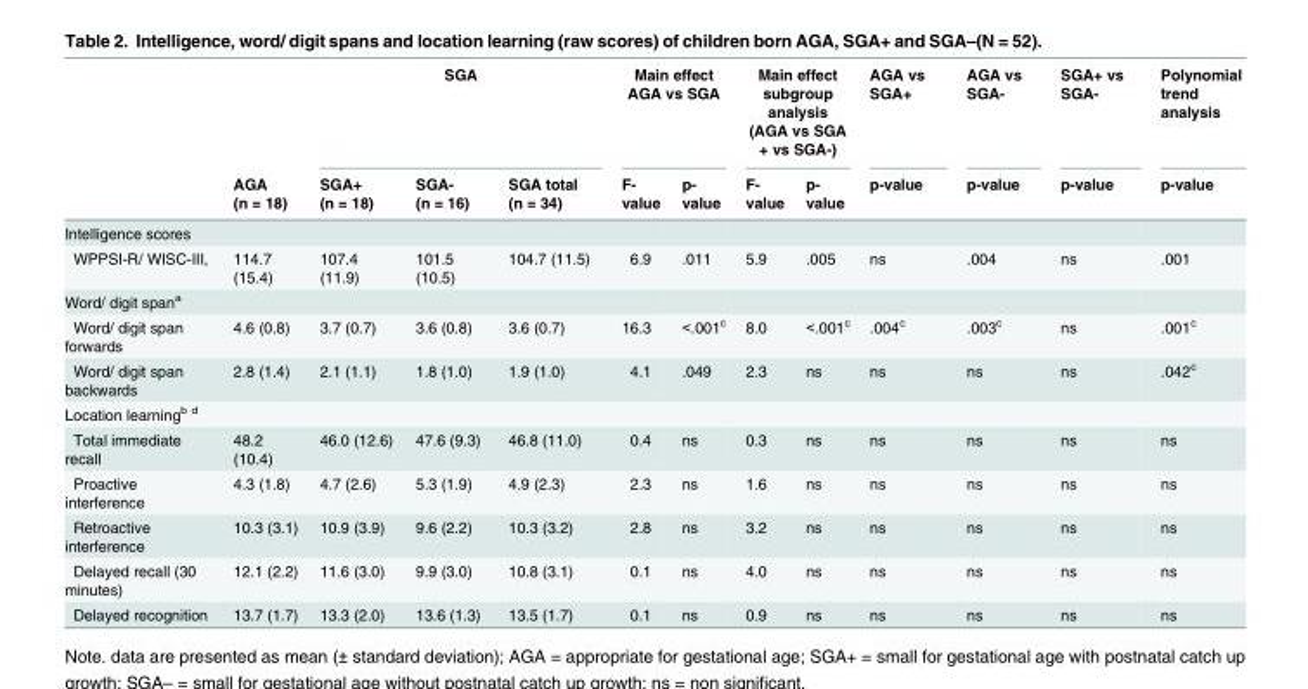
<table><thead><tr><td rowspan="2"></td><td rowspan="2">AGA (n = 18)</td><td colspan="3">SGA</td><td colspan="2">Main effect AGA vs SGA</td><td colspan="2">Main effect subgroup analysis (AGA vs SGA + vs SGA-)</td><td rowspan="2">AGA vs SGA+ p-value</td><td rowspan="2">AGA vs SGA- p-value</td><td rowspan="2">SGA+ vs SGA- p-value</td><td rowspan="2">Polynomial trend analysis p-value</td></tr><tr><td>SGA+ (n = 18)</td><td>SGA- (n = 16)</td><td>SGA total (n = 34)</td><td>F- value</td><td>p- value</td><td>F- value</td><td>p- value</td></tr></thead><tbody><tr><td colspan="13">Intelligence scores</td></tr><tr><td>WPPSI-R/ WISC-III,</td><td>114.7 (15.4)</td><td>107.4 (11.9)</td><td>101.5 (10.5)</td><td>104.7 (11.5)</td><td>6.9</td><td>.011</td><td>5.9</td><td>.005</td><td>ns</td><td>.004</td><td>ns</td><td>.001</td></tr><tr><td colspan="13">Word/ digit span<sup>a</sup></td></tr><tr><td>Word/ digit span forwards</td><td>4.6 (0.8)</td><td>3.7 (0.7)</td><td>3.6 (0.8)</td><td>3.6 (0.7)</td><td>16.3</td><td>&lt;.001<sup>c</sup></td><td>8.0</td><td>&lt;.001<sup>c</sup></td><td>.004<sup>c</sup></td><td>.003<sup>c</sup></td><td>ns</td><td>.001<sup>c</sup></td></tr><tr><td>Word/ digit span backwards</td><td>2.8 (1.4)</td><td>2.1 (1.1)</td><td>1.8 (1.0)</td><td>1.9 (1.0)</td><td>4.1</td><td>.049</td><td>2.3</td><td>ns</td><td>ns</td><td>ns</td><td>ns</td><td>.042<sup>c</sup></td></tr><tr><td colspan="13">Location learning<sup>b d</sup></td></tr><tr><td>Total immediate recall</td><td>48.2 (10.4)</td><td>46.0 (12.6)</td><td>47.6 (9.3)</td><td>46.8 (11.0)</td><td>0.4</td><td>ns</td><td>0.3</td><td>ns</td><td>ns</td><td>ns</td><td>ns</td><td>ns</td></tr><tr><td>Proactive interference</td><td>4.3 (1.8)</td><td>4.7 (2.6)</td><td>5.3 (1.9)</td><td>4.9 (2.3)</td><td>2.3</td><td>ns</td><td>1.6</td><td>ns</td><td>ns</td><td>ns</td><td>ns</td><td>ns</td></tr><tr><td>Retroactive interference</td><td>10.3 (3.1)</td><td>10.9 (3.9)</td><td>9.6 (2.2)</td><td>10.3 (3.2)</td><td>2.8</td><td>ns</td><td>3.2</td><td>ns</td><td>ns</td><td>ns</td><td>ns</td><td>ns</td></tr><tr><td>Delayed recall (30 minutes)</td><td>12.1 (2.2)</td><td>11.6 (3.0)</td><td>9.9 (3.0)</td><td>10.8 (3.1)</td><td>0.1</td><td>ns</td><td>4.0</td><td>ns</td><td>ns</td><td>ns</td><td>ns</td><td>ns</td></tr><tr><td>Delayed recognition</td><td>13.7 (1.7)</td><td>13.3 (2.0)</td><td>13.6 (1.3)</td><td>13.5 (1.7)</td><td>0.1</td><td>ns</td><td>0.9</td><td>ns</td><td>ns</td><td>ns</td><td>ns</td><td>ns</td></tr></tbody></table>